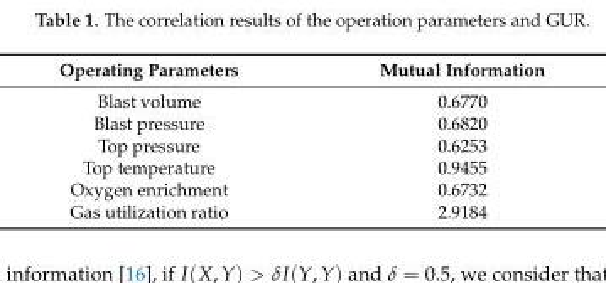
<table><thead><tr><td>Operating Parameters</td><td>Mutual Information</td></tr></thead><tbody><tr><td>Blast volume</td><td>0.6770</td></tr><tr><td>Blast pressure</td><td>0.6820</td></tr><tr><td>Top pressure</td><td>0.6253</td></tr><tr><td>Top temperature</td><td>0.9455</td></tr><tr><td>Oxygen enrichment</td><td>0.6732</td></tr><tr><td>Gas utilization ratio</td><td>2.9184</td></tr></tbody></table>